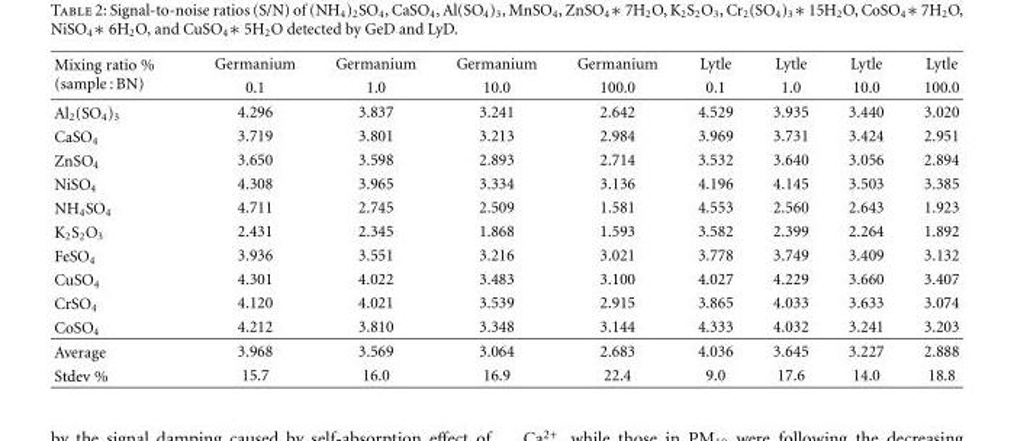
<table><thead><tr><td rowspan="2">Mixing ratio % (sample : BN)</td><td rowspan="2">Germanium 0.1</td><td rowspan="2">Germanium 1.0</td><td rowspan="2">Germanium 10.0</td><td rowspan="2">Germanium 100.0</td><td rowspan="2">Lytle 0.1</td><td rowspan="2">Lytle 1.0</td><td rowspan="2">Lytle 10.0</td><td rowspan="2">Lytle 100.0</td></tr><tr></tr></thead><tbody><tr><td>Al<sub>2</sub>(SO<sub>4</sub>)<sub>3</sub></td><td>4.296</td><td>3.837</td><td>3.241</td><td>2.642</td><td>4.529</td><td>3.935</td><td>3.440</td><td>3.020</td></tr><tr><td>CaSO<sub>4</sub></td><td>3.719</td><td>3.801</td><td>3.213</td><td>2.984</td><td>3.969</td><td>3.731</td><td>3.424</td><td>2.951</td></tr><tr><td>ZnSO<sub>4</sub></td><td>3.650</td><td>3.598</td><td>2.893</td><td>2.714</td><td>3.532</td><td>3.640</td><td>3.056</td><td>2.894</td></tr><tr><td>NiSO<sub>4</sub></td><td>4.308</td><td>3.965</td><td>3.334</td><td>3.136</td><td>4.196</td><td>4.145</td><td>3.503</td><td>3.385</td></tr><tr><td>NH<sub>4</sub>SO<sub>4</sub></td><td>4.711</td><td>2.745</td><td>2.509</td><td>1.581</td><td>4.553</td><td>2.560</td><td>2.643</td><td>1.923</td></tr><tr><td>K<sub>2</sub>S<sub>2</sub>O<sub>3</sub></td><td>2.431</td><td>2.345</td><td>1.868</td><td>1.593</td><td>3.582</td><td>2.399</td><td>2.264</td><td>1.892</td></tr><tr><td>FeSO<sub>4</sub></td><td>3.936</td><td>3.551</td><td>3.216</td><td>3.021</td><td>3.778</td><td>3.749</td><td>3.409</td><td>3.132</td></tr><tr><td>CuSO<sub>4</sub></td><td>4.301</td><td>4.022</td><td>3.483</td><td>3.100</td><td>4.027</td><td>4.229</td><td>3.660</td><td>3.407</td></tr><tr><td>CrSO<sub>4</sub></td><td>4.120</td><td>4.021</td><td>3.539</td><td>2.915</td><td>3.865</td><td>4.033</td><td>3.633</td><td>3.074</td></tr><tr><td>CoSO<sub>4</sub></td><td>4.212</td><td>3.810</td><td>3.348</td><td>3.144</td><td>4.333</td><td>4.032</td><td>3.241</td><td>3.203</td></tr><tr><td>Average</td><td>3.968</td><td>3.569</td><td>3.064</td><td>2.683</td><td>4.036</td><td>3.645</td><td>3.227</td><td>2.888</td></tr><tr><td>Stdev %</td><td>15.7</td><td>16.0</td><td>16.9</td><td>22.4</td><td>9.0</td><td>17.6</td><td>14.0</td><td>18.8</td></tr></tbody></table>